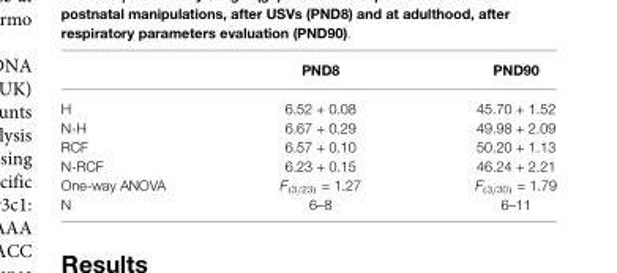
<table><thead><tr><td></td><td>PND8</td><td>PND90</td></tr></thead><tbody><tr><td>H</td><td>6.52 + 0.08</td><td>45.70 + 1.52</td></tr><tr><td>N-H</td><td>6.67 + 0.29</td><td>49.98 + 2.09</td></tr><tr><td>RCF</td><td>6.57 + 0.10</td><td>50.20 + 1.13</td></tr><tr><td>N-RCF</td><td>6.23 + 0.15</td><td>46.24 + 2.21</td></tr><tr><td>One-way ANOVA</td><td>F<sub>(3/23)</sub> = 1.27</td><td>F<sub>(3/30)</sub> = 1.79</td></tr><tr><td>N</td><td>6–8</td><td>6–11</td></tr></tbody></table>